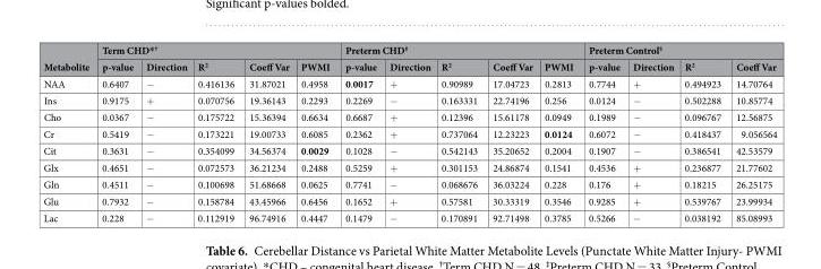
<table><thead><tr><td rowspan="2">Metabolite</td><td colspan="5">Term CHD*<sup>†</sup></td><td colspan="5">Preterm CHD<sup>‡</sup></td><td colspan="4">Preterm Control<sup>§</sup></td></tr><tr><td>p-value</td><td>Direction</td><td>R<sup>2</sup></td><td>Coeff Var</td><td>PWMI</td><td>p-value</td><td>Direction</td><td>R<sup>2</sup></td><td>Coeff Var</td><td>PWMI</td><td>p-value</td><td>Direction</td><td>R<sup>2</sup></td><td>Coeff Var</td></tr></thead><tbody><tr><td>NAA</td><td>0.6407</td><td>−</td><td>0.416136</td><td>31.87021</td><td>0.4958</td><td>0.0017</td><td>+</td><td>0.90989</td><td>17.04723</td><td>0.2813</td><td>0.7744</td><td>+</td><td>0.494923</td><td>14.70764</td></tr><tr><td>Ins</td><td>0.9175</td><td>+</td><td>0.070756</td><td>19.36143</td><td>0.2293</td><td>0.2269</td><td>−</td><td>0.163331</td><td>22.74196</td><td>0.256</td><td>0.0124</td><td>−</td><td>0.502288</td><td>10.85774</td></tr><tr><td>Cho</td><td>0.0367</td><td>−</td><td>0.175722</td><td>15.36394</td><td>0.6634</td><td>0.6687</td><td>+</td><td>0.12396</td><td>15.61178</td><td>0.0949</td><td>0.1989</td><td>−</td><td>0.096767</td><td>12.56875</td></tr><tr><td>Cr</td><td>0.5419</td><td>−</td><td>0.173221</td><td>19.00733</td><td>0.6085</td><td>0.2362</td><td>+</td><td>0.737064</td><td>12.23223</td><td>0.0124</td><td>0.6072</td><td>−</td><td>0.418437</td><td>9.056564</td></tr><tr><td>Cit</td><td>0.3631</td><td>−</td><td>0.354099</td><td>34.56374</td><td>0.0029</td><td>0.1028</td><td>−</td><td>0.542143</td><td>35.20652</td><td>0.2004</td><td>0.1907</td><td>−</td><td>0.386541</td><td>42.53579</td></tr><tr><td>Glx</td><td>0.4651</td><td>−</td><td>0.072573</td><td>36.21234</td><td>0.2488</td><td>0.5259</td><td>+</td><td>0.301153</td><td>24.86874</td><td>0.1541</td><td>0.4536</td><td>+</td><td>0.236877</td><td>21.77602</td></tr><tr><td>Gln</td><td>0.4511</td><td>−</td><td>0.100698</td><td>51.68668</td><td>0.0625</td><td>0.7741</td><td>−</td><td>0.068676</td><td>36.03224</td><td>0.228</td><td>0.176</td><td>+</td><td>0.18215</td><td>26.25175</td></tr><tr><td>Glu</td><td>0.7932</td><td>−</td><td>0.158784</td><td>43.45966</td><td>0.6456</td><td>0.1652</td><td>+</td><td>0.57581</td><td>30.33319</td><td>0.3546</td><td>0.9285</td><td>+</td><td>0.539767</td><td>23.99934</td></tr><tr><td>Lac</td><td>0.228</td><td>−</td><td>0.112919</td><td>96.74916</td><td>0.4447</td><td>0.1479</td><td>−</td><td>0.170891</td><td>92.71498</td><td>0.3785</td><td>0.5266</td><td>−</td><td>0.038192</td><td>85.08993</td></tr></tbody></table>